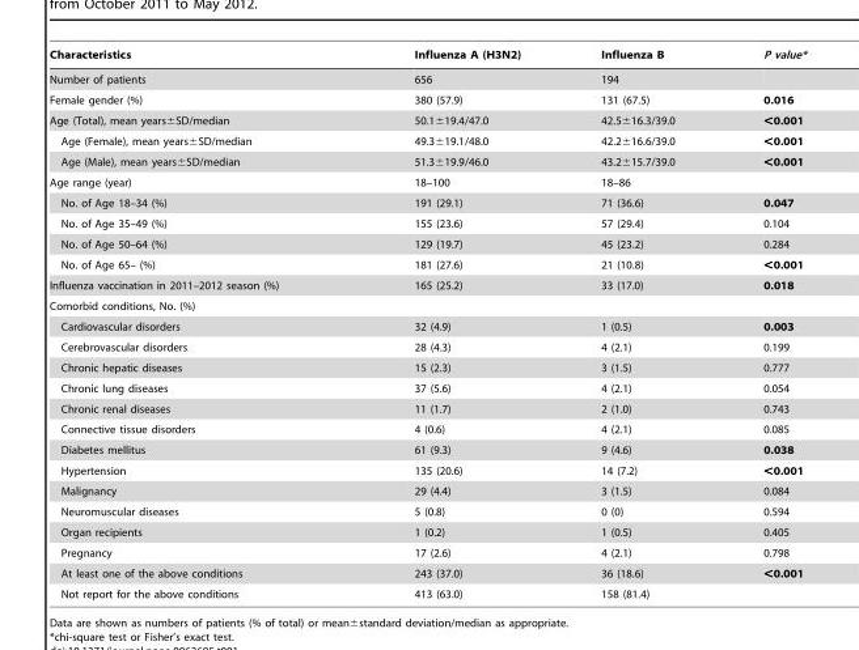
<table><thead><tr><td>Characteristics</td><td>Influenza A (H3N2)</td><td>Influenza B</td><td>P value*</td></tr></thead><tbody><tr><td>Number of patients</td><td>656</td><td>194</td><td></td></tr><tr><td>Female gender (%)</td><td>380 (57.9)</td><td>131 (67.5)</td><td>0.016</td></tr><tr><td>Age (Total), mean years±SD/median</td><td>50.1±19.4/47.0</td><td>42.5±16.3/39.0</td><td>&lt;0.001</td></tr><tr><td>Age (Female), mean years±SD/median</td><td>49.3±19.1/48.0</td><td>42.2±16.6/39.0</td><td>&lt;0.001</td></tr><tr><td>Age (Male), mean years±SD/median</td><td>51.3±19.9/46.0</td><td>43.2±15.7/39.0</td><td>&lt;0.001</td></tr><tr><td>Age range (year)</td><td>18–100</td><td>18–86</td><td></td></tr><tr><td>No. of Age 18–34 (%)</td><td>191 (29.1)</td><td>71 (36.6)</td><td>0.047</td></tr><tr><td>No. of Age 35–49 (%)</td><td>155 (23.6)</td><td>57 (29.4)</td><td>0.104</td></tr><tr><td>No. of Age 50–64 (%)</td><td>129 (19.7)</td><td>45 (23.2)</td><td>0.284</td></tr><tr><td>No. of Age 65– (%)</td><td>181 (27.6)</td><td>21 (10.8)</td><td>&lt;0.001</td></tr><tr><td>Influenza vaccination in 2011–2012 season (%)</td><td>165 (25.2)</td><td>33 (17.0)</td><td>0.018</td></tr><tr><td colspan="4">Comorbid conditions, No. (%)</td></tr><tr><td>Cardiovascular disorders</td><td>32 (4.9)</td><td>1 (0.5)</td><td>0.003</td></tr><tr><td>Cerebrovascular disorders</td><td>28 (4.3)</td><td>4 (2.1)</td><td>0.199</td></tr><tr><td>Chronic hepatic diseases</td><td>15 (2.3)</td><td>3 (1.5)</td><td>0.777</td></tr><tr><td>Chronic lung diseases</td><td>37 (5.6)</td><td>4 (2.1)</td><td>0.054</td></tr><tr><td>Chronic renal diseases</td><td>11 (1.7)</td><td>2 (1.0)</td><td>0.743</td></tr><tr><td>Connective tissue disorders</td><td>4 (0.6)</td><td>4 (2.1)</td><td>0.085</td></tr><tr><td>Diabetes mellitus</td><td>61 (9.3)</td><td>9 (4.6)</td><td>0.038</td></tr><tr><td>Hypertension</td><td>135 (20.6)</td><td>14 (7.2)</td><td>&lt;0.001</td></tr><tr><td>Malignancy</td><td>29 (4.4)</td><td>3 (1.5)</td><td>0.084</td></tr><tr><td>Neuromuscular diseases</td><td>5 (0.8)</td><td>0 (0)</td><td>0.594</td></tr><tr><td>Organ recipients</td><td>1 (0.2)</td><td>1 (0.5)</td><td>0.405</td></tr><tr><td>Pregnancy</td><td>17 (2.6)</td><td>4 (2.1)</td><td>0.798</td></tr><tr><td>At least one of the above conditions</td><td>243 (37.0)</td><td>36 (18.6)</td><td>&lt;0.001</td></tr><tr><td>Not report for the above conditions</td><td>413 (63.0)</td><td>158 (81.4)</td><td></td></tr></tbody></table>